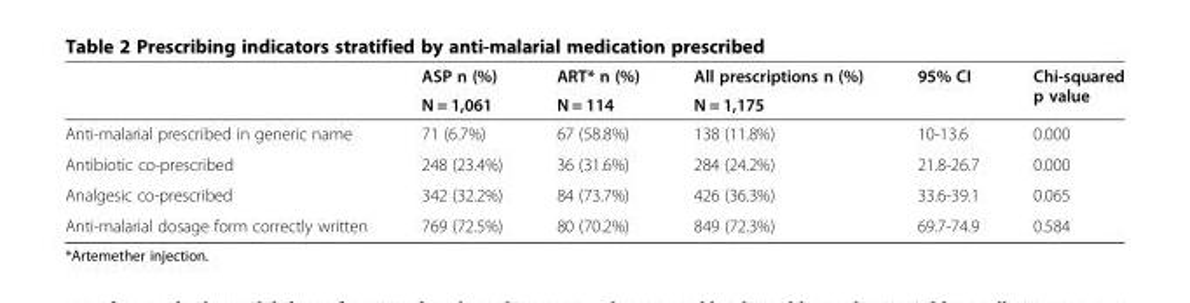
<table><thead><tr><td rowspan="2"></td><td rowspan="2">ASP n (%) N = 1,061</td><td rowspan="2">ART* n (%) N = 114</td><td rowspan="2">All prescriptions n (%) N = 1,175</td><td rowspan="2">95% CI</td><td rowspan="2">Chi-squared p value</td></tr><tr></tr></thead><tbody><tr><td>Anti-malarial prescribed in generic name</td><td>71 (6.7%)</td><td>67 (58.8%)</td><td>138 (11.8%)</td><td>10-13.6</td><td>0.000</td></tr><tr><td>Antibiotic co-prescribed</td><td>248 (23.4%)</td><td>36 (31.6%)</td><td>284 (24.2%)</td><td>21.8-26.7</td><td>0.000</td></tr><tr><td>Analgesic co-prescribed</td><td>342 (32.2%)</td><td>84 (73.7%)</td><td>426 (36.3%)</td><td>33.6-39.1</td><td>0.065</td></tr><tr><td>Anti-malarial dosage form correctly written</td><td>769 (72.5%)</td><td>80 (70.2%)</td><td>849 (72.3%)</td><td>69.7-74.9</td><td>0.584</td></tr></tbody></table>